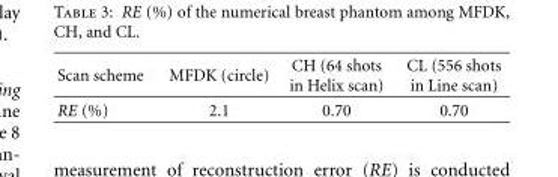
<table><thead><tr><td>Scan scheme</td><td>MFDK (circle)</td><td>CH (64 shots in Helix scan)</td><td>CL (556 shots in Line scan)</td></tr></thead><tbody><tr><td>RE (%)</td><td>2.1</td><td>0.70</td><td>0.70</td></tr></tbody></table>